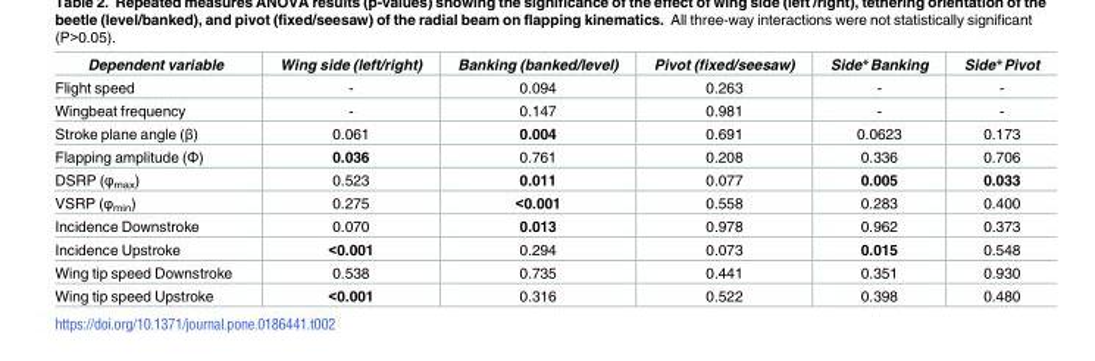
<table><thead><tr><td>Dependent variable</td><td>Wing side (left/right)</td><td>Banking (banked/level)</td><td>Pivot (fixed/seesaw)</td><td>Side*Banking</td><td>Side*Pivot</td></tr></thead><tbody><tr><td>Flight speed</td><td>-</td><td>0.094</td><td>0.263</td><td>-</td><td>-</td></tr><tr><td>Wingbeat frequency</td><td>-</td><td>0.147</td><td>0.981</td><td>-</td><td>-</td></tr><tr><td>Stroke plane angle (β)</td><td>0.061</td><td>0.004</td><td>0.691</td><td>0.0623</td><td>0.173</td></tr><tr><td>Flapping amplitude (Φ)</td><td>0.036</td><td>0.761</td><td>0.208</td><td>0.336</td><td>0.706</td></tr><tr><td>DSRP (φ<sub>max</sub>)</td><td>0.523</td><td>0.011</td><td>0.077</td><td>0.005</td><td>0.033</td></tr><tr><td>VSRP (φ<sub>min</sub>)</td><td>0.275</td><td>&lt;0.001</td><td>0.558</td><td>0.283</td><td>0.400</td></tr><tr><td>Incidence Downstroke</td><td>0.070</td><td>0.013</td><td>0.978</td><td>0.962</td><td>0.373</td></tr><tr><td>Incidence Upstroke</td><td>&lt;0.001</td><td>0.294</td><td>0.073</td><td>0.015</td><td>0.548</td></tr><tr><td>Wing tip speed Downstroke</td><td>0.538</td><td>0.735</td><td>0.441</td><td>0.351</td><td>0.930</td></tr><tr><td>Wing tip speed Upstroke</td><td>&lt;0.001</td><td>0.316</td><td>0.522</td><td>0.398</td><td>0.480</td></tr></tbody></table>